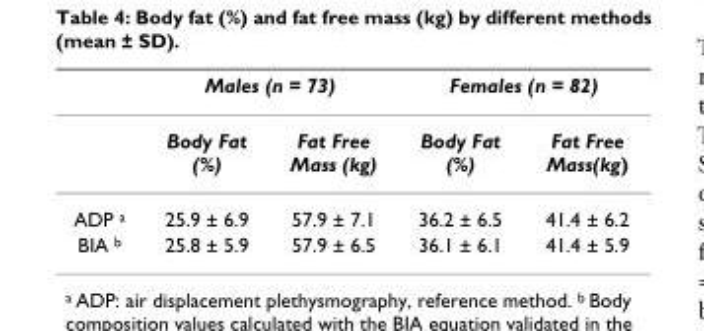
<table><thead><tr><td rowspan="2"></td><td colspan="2">Males (n = 73)</td><td colspan="2">Females (n = 82)</td></tr><tr><td>Body Fat (%)</td><td>Fat Free Mass (kg)</td><td>Body Fat (%)</td><td>Fat Free Mass(kg)</td></tr></thead><tbody><tr><td>ADP <sup>a</sup></td><td>25.9 ± 6.9</td><td>57.9 ± 7.1</td><td>36.2 ± 6.5</td><td>41.4 ± 6.2</td></tr><tr><td>BIA <sup>b</sup></td><td>25.8 ± 5.9</td><td>57.9 ± 6.5</td><td>36.1 ± 6.1</td><td>41.4 ± 5.9</td></tr></tbody></table>